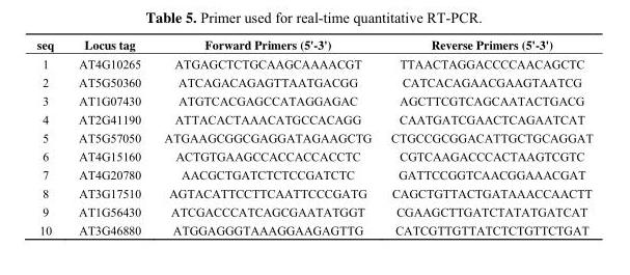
<table><thead><tr><td>seq</td><td>Locus tag</td><td>Forward Primers (5&#x27;-3&#x27;)</td><td>Reverse Primers (5&#x27;-3&#x27;)</td></tr></thead><tbody><tr><td>1</td><td>AT4G10265</td><td>ATGAGCTCTGCAAGCAAAACGT</td><td>TTAACTAGGACCCCAACAGCTC</td></tr><tr><td>2</td><td>AT5G50360</td><td>ATCAGACAGAGTTAATGACGG</td><td>CATCACAGAACGAAGTAATCG</td></tr><tr><td>3</td><td>AT1G07430</td><td>ATGTCACGAGCCATAGGAGAC</td><td>AGCTTCGTCAGCAATACTGACG</td></tr><tr><td>4</td><td>AT2G41190</td><td>ATTACACTAAACATGCCACAGG</td><td>CAATGATCGAACTCAGAATCAT</td></tr><tr><td>5</td><td>AT5G57050</td><td>ATGAAGCGGCGAGGATAGAAGCTG</td><td>CTGCCGCGGACATTGCTGCAGGAT</td></tr><tr><td>6</td><td>AT4G15160</td><td>ACTGTGAAGCCACCACCACCTC</td><td>CGTCAAGACCCACTAAGTCGTC</td></tr><tr><td>7</td><td>AT4G20780</td><td>AACGCTGATCTCTCCGATCTC</td><td>GATTCCGGTCAACGGAAACGAT</td></tr><tr><td>8</td><td>AT3G17510</td><td>AGTACATTCCTTCAATTCCCGATG</td><td>CAGCTGTTACTGATAAACCAACTT</td></tr><tr><td>9</td><td>AT1G56430</td><td>ATCGACCCATCAGCGAATATGGT</td><td>CGAAGCTTGATCTATATGATCAT</td></tr><tr><td>10</td><td>AT3G46880</td><td>ATGGAGGGTAAAGGAAGAGTTG</td><td>CATCGTTGTTATCTCTGTTCTGAT</td></tr></tbody></table>